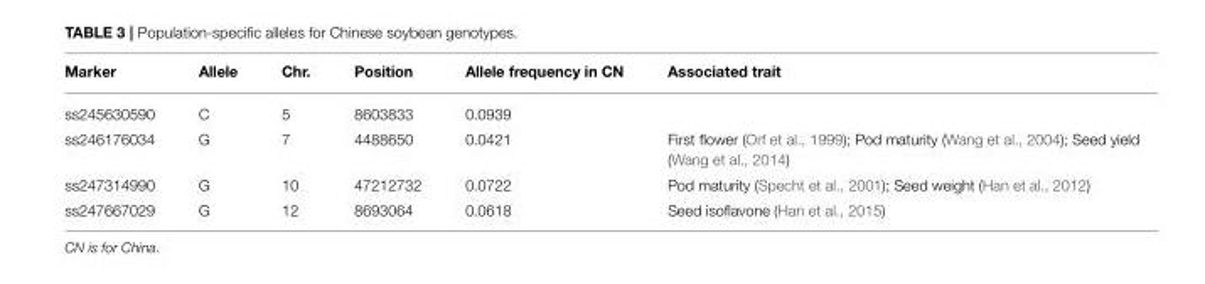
<table><thead><tr><td>Marker</td><td>Allele</td><td>Chr.</td><td>Position</td><td>Allele frequency in CN</td><td>Associated trait</td></tr></thead><tbody><tr><td>ss245630590</td><td>C</td><td>5</td><td>8603833</td><td>0.0939</td><td></td></tr><tr><td>ss246176034</td><td>G</td><td>7</td><td>4488650</td><td>0.0421</td><td>First flower (Orf et al., 1999); Pod maturity (Wang et al., 2004); Seed yield (Wang et al., 2014)</td></tr><tr><td>ss247314990</td><td>G</td><td>10</td><td>47212732</td><td>0.0722</td><td>Pod maturity (Specht et al., 2001); Seed weight (Han et al., 2012)</td></tr><tr><td>ss247667029</td><td>G</td><td>12</td><td>8693064</td><td>0.0618</td><td>Seed isoflavone (Han et al., 2015)</td></tr></tbody></table>